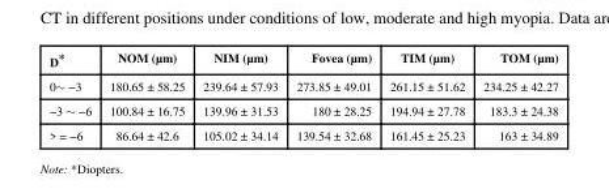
<table><thead><tr><td>D*</td><td>NOM (µm)</td><td>NIM (µm)</td><td>Fovea (µm)</td><td>TIM (µm)</td><td>TOM (µm)</td></tr></thead><tbody><tr><td>0∼ −3</td><td>180.65 ± 58.25</td><td>239.64 ± 57.93</td><td>273.85 ± 49.01</td><td>261.15 ± 51.62</td><td>234.25 ± 42.27</td></tr><tr><td>−3 ∼ −6</td><td>100.84 ± 16.75</td><td>139.96 ± 31.53</td><td>180 ± 28.25</td><td>194.94 ± 27.78</td><td>183.3 ± 24.38</td></tr><tr><td>&gt; = −6</td><td>86.64 ± 42.6</td><td>105.02 ± 34.14</td><td>139.54 ± 32.68</td><td>161.45 ± 25.23</td><td>163 ± 34.89</td></tr></tbody></table>